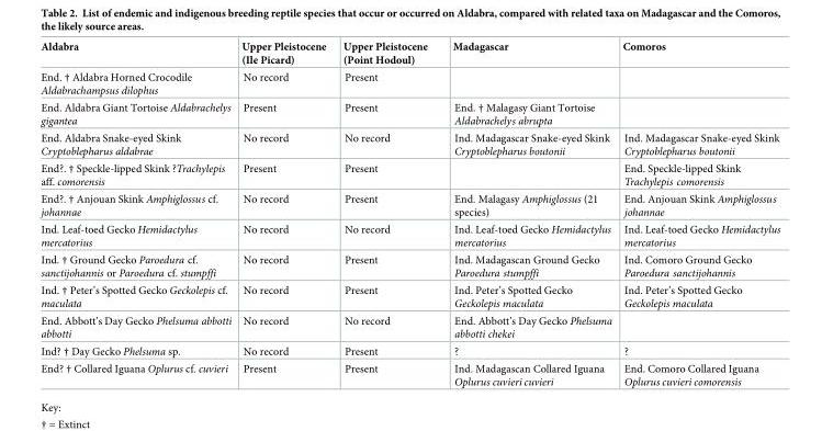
<table><thead><tr><td>Aldabra</td><td>Upper Pleistocene (Ile Picard)</td><td>Upper Pleistocene (Point Hodoul)</td><td>Madagascar</td><td>Comoros</td></tr></thead><tbody><tr><td>End. † Aldabra Horned Crocodile Aldabrachampsus dilophus</td><td>No record</td><td>Present</td><td></td><td></td></tr><tr><td>End. Aldabra Giant Tortoise Aldabrachelys gigantea</td><td>Present</td><td>Present</td><td>End. † Malagasy Giant Tortoise Aldabrachelys abrupta</td><td></td></tr><tr><td>End. Aldabra Snake-eyed Skink Cryptoblepharus aldabrae</td><td>No record</td><td>No record</td><td>Ind. Madagascar Snake-eyed Skink Cryptoblepharus boutonii</td><td>Ind. Madagascar Snake-eyed Skink Cryptoblepharus boutonii</td></tr><tr><td>End?. † Speckle-lipped Skink ?Trachylepis aff. comorensis</td><td>Present</td><td>Present</td><td></td><td>End. Speckle-lipped Skink Trachylepis comorensis</td></tr><tr><td>End?. † Anjouan Skink Amphiglossus cf. johannae</td><td>No record</td><td>Present</td><td>End. Malagasy Amphiglossus (21 species)</td><td>End. Anjouan Skink Amphiglossus johannae</td></tr><tr><td>Ind. Leaf-toed Gecko Hemidactylus mercatorius</td><td>No record</td><td>No record</td><td>Ind. Leaf-toed Gecko Hemidactylus mercatorius</td><td>Ind. Leaf-toed Gecko Hemidactylus mercatorius</td></tr><tr><td>Ind. † Ground Gecko Paroedura cf. sanctijohannis or Paroedura cf. stumpffi</td><td>No record</td><td>Present</td><td>Ind. Madagascan Ground Gecko Paroedura stumpffi</td><td>Ind. Comoro Ground Gecko Paroedura sanctijohannis</td></tr><tr><td>Ind. † Peter’s Spotted Gecko Geckolepis cf. maculata</td><td>No record</td><td>Present</td><td>Ind. Peter’s Spotted Gecko Geckolepis maculata</td><td>Ind. Peter’s Spotted Gecko Geckolepis maculata</td></tr><tr><td>End. Abbott’s Day Gecko Phelsuma abbotti abbotti</td><td>No record</td><td>No record</td><td>End. Abbott’s Day Gecko Phelsuma abbotti chekei</td><td></td></tr><tr><td>Ind? † Day Gecko Phelsuma sp.</td><td>No record</td><td>Present</td><td>?</td><td>?</td></tr><tr><td>End? † Collared Iguana Oplurus cf. cuvieri</td><td>Present</td><td>Present</td><td>Ind. Madagascan Collared Iguana Oplurus cuvieri cuvieri</td><td>End. Comoro Collared Iguana Oplurus cuvieri comorensis</td></tr></tbody></table>